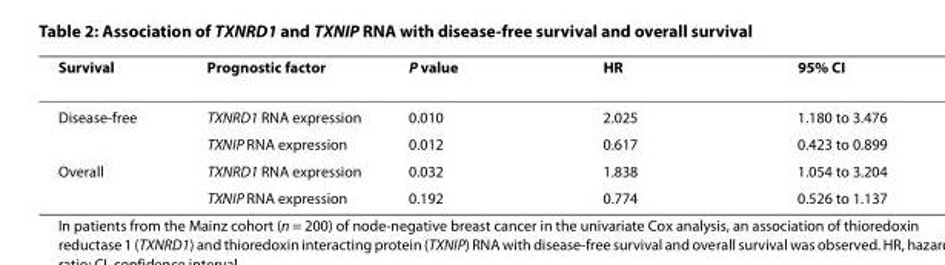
<table><thead><tr><td>Survival</td><td>Prognostic factor</td><td>P value</td><td>HR</td><td>95% CI</td></tr></thead><tbody><tr><td rowspan="2">Disease-free</td><td>TXNRD1 RNA expression</td><td>0.010</td><td>2.025</td><td>1.180 to 3.476</td></tr><tr><td>TXNIP RNA expression</td><td>0.012</td><td>0.617</td><td>0.423 to 0.899</td></tr><tr><td rowspan="2">Overall</td><td>TXNRD1 RNA expression</td><td>0.032</td><td>1.838</td><td>1.054 to 3.204</td></tr><tr><td>TXNIP RNA expression</td><td>0.192</td><td>0.774</td><td>0.526 to 1.137</td></tr></tbody></table>